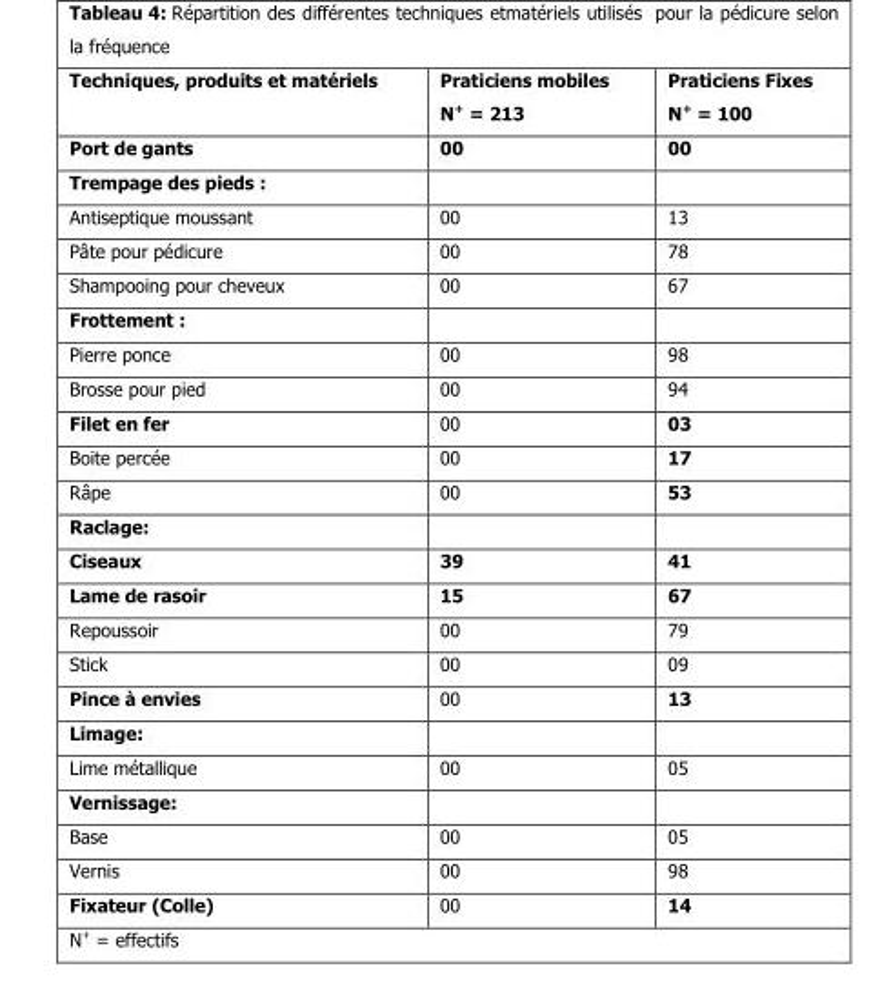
<table><thead><tr><td rowspan="2">Techniques, produits et matériels Port de gants</td><td rowspan="2">Praticiens mobiles N<sup>+</sup> = 213 00</td><td rowspan="2">Praticiens Fixes N<sup>+</sup> = 100 00</td></tr><tr></tr></thead><tbody><tr><td colspan="3">Trempage des pieds :</td></tr><tr><td>Antiseptique moussant</td><td>00</td><td>13</td></tr><tr><td>Pâte pour pédicure</td><td>00</td><td>78</td></tr><tr><td>Shampooing pour cheveux</td><td>00</td><td>67</td></tr><tr><td colspan="3">Frottement :</td></tr><tr><td>Pierre ponce</td><td>00</td><td>98</td></tr><tr><td>Brosse pour pied</td><td>00</td><td>94</td></tr><tr><td>Filet en fer</td><td>00</td><td>03</td></tr><tr><td>Boite percée</td><td>00</td><td>17</td></tr><tr><td>Râpe</td><td>00</td><td>53</td></tr><tr><td colspan="3">Raclage:</td></tr><tr><td>Ciseaux</td><td>39</td><td>41</td></tr><tr><td>Lame de rasoir</td><td>15</td><td>67</td></tr><tr><td>Repoussoir</td><td>00</td><td>79</td></tr><tr><td>Stick</td><td>00</td><td>09</td></tr><tr><td>Pince à envies</td><td>00</td><td>13</td></tr><tr><td colspan="3">Limage:</td></tr><tr><td>Lime métallique</td><td>00</td><td>05</td></tr><tr><td colspan="3">Vernissage:</td></tr><tr><td>Base</td><td>00</td><td>05</td></tr><tr><td>Vernis</td><td>00</td><td>98</td></tr><tr><td>Fixateur (Colle)</td><td>00</td><td>14</td></tr></tbody></table>